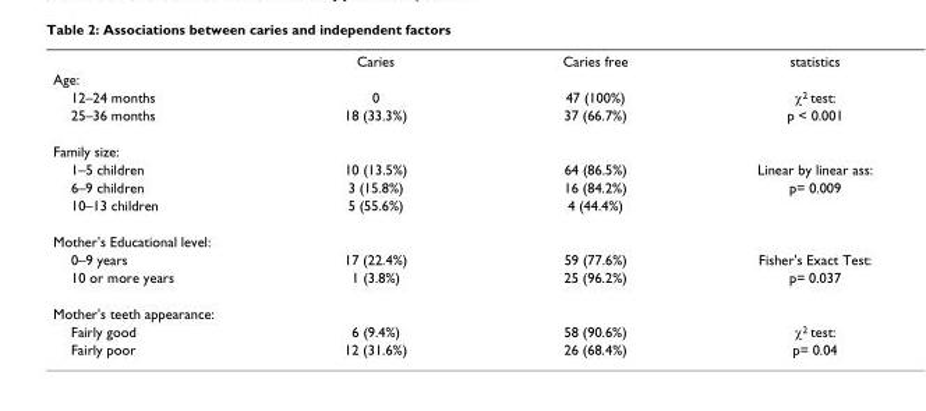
<table><thead><tr><td></td><td>Caries</td><td>Caries free</td><td>statistics</td></tr></thead><tbody><tr><td colspan="4">Age:</td></tr><tr><td>12–24 months</td><td>0</td><td>47 (100%)</td><td>χ<sup>2</sup> test:</td></tr><tr><td>25–36 months</td><td>18 (33.3%)</td><td>37 (66.7%)</td><td>p &lt; 0.001</td></tr><tr><td colspan="4">Family size:</td></tr><tr><td>1–5 children</td><td>10 (13.5%)</td><td>64 (86.5%)</td><td>Linear by linear ass:</td></tr><tr><td>6–9 children</td><td>3 (15.8%)</td><td>16 (84.2%)</td><td>p= 0.009</td></tr><tr><td>10–13 children</td><td>5 (55.6%)</td><td>4 (44.4%)</td><td></td></tr><tr><td colspan="4">Mother&#x27;s Educational level:</td></tr><tr><td>0–9 years</td><td>17 (22.4%)</td><td>59 (77.6%)</td><td>Fisher&#x27;s Exact Test:</td></tr><tr><td>10 or more years</td><td>1 (3.8%)</td><td>25 (96.2%)</td><td>p= 0.037</td></tr><tr><td colspan="4">Mother&#x27;s teeth appearance:</td></tr><tr><td>Fairly good</td><td>6 (9.4%)</td><td>58 (90.6%)</td><td>χ<sup>2</sup> test:</td></tr><tr><td>Fairly poor</td><td>12 (31.6%)</td><td>26 (68.4%)</td><td>p= 0.04</td></tr></tbody></table>